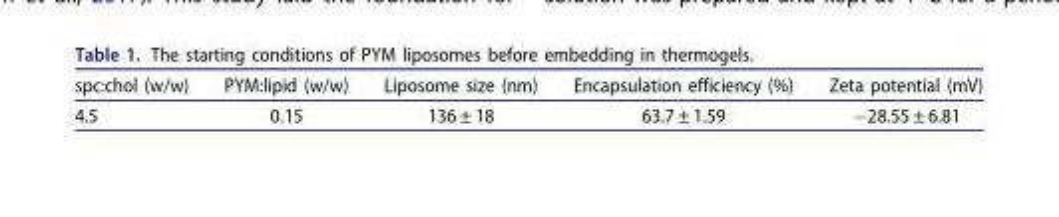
<table><thead><tr><td>spc:chol (w/w)</td><td>PYM:lipid (w/w)</td><td>Liposome size (nm)</td><td>Encapsulation efficiency (%)</td><td>Zeta potential (mV)</td></tr></thead><tbody><tr><td>4.5</td><td>0.15</td><td>136 ± 18</td><td>63.7 ± 1.59</td><td>−28.55 ± 6.81</td></tr></tbody></table>